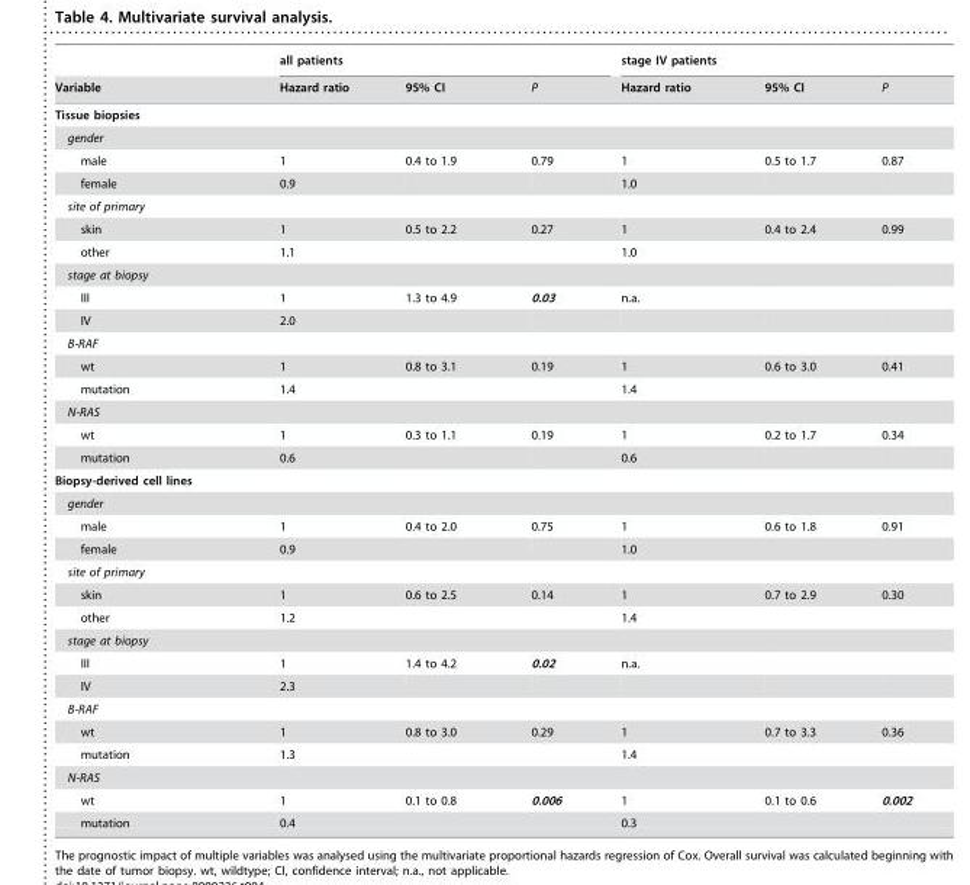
<table><thead><tr><td rowspan="2">Variable</td><td colspan="3">all patients</td><td colspan="3">stage IV patients</td></tr><tr><td>Hazard ratio</td><td>95% CI</td><td>P</td><td>Hazard ratio</td><td>95% CI</td><td>P</td></tr></thead><tbody><tr><td colspan="7">Tissue biopsies</td></tr><tr><td colspan="7">gender</td></tr><tr><td>male</td><td>1</td><td>0.4 to 1.9</td><td>0.79</td><td>1</td><td>0.5 to 1.7</td><td>0.87</td></tr><tr><td>female</td><td>0.9</td><td></td><td></td><td>1.0</td><td></td><td></td></tr><tr><td colspan="7">site of primary</td></tr><tr><td>skin</td><td>1</td><td>0.5 to 2.2</td><td>0.27</td><td>1</td><td>0.4 to 2.4</td><td>0.99</td></tr><tr><td>other</td><td>1.1</td><td></td><td></td><td>1.0</td><td></td><td></td></tr><tr><td colspan="7">stage at biopsy</td></tr><tr><td>III</td><td>1</td><td>1.3 to 4.9</td><td>0.03</td><td>n.a.</td><td></td><td></td></tr><tr><td>IV</td><td>2.0</td><td></td><td></td><td></td><td></td><td></td></tr><tr><td colspan="7">B-RAF</td></tr><tr><td>wt</td><td>1</td><td>0.8 to 3.1</td><td>0.19</td><td>1</td><td>0.6 to 3.0</td><td>0.41</td></tr><tr><td>mutation</td><td>1.4</td><td></td><td></td><td>1.4</td><td></td><td></td></tr><tr><td colspan="7">N-RAS</td></tr><tr><td>wt</td><td>1</td><td>0.3 to 1.1</td><td>0.19</td><td>1</td><td>0.2 to 1.7</td><td>0.34</td></tr><tr><td>mutation</td><td>0.6</td><td></td><td></td><td>0.6</td><td></td><td></td></tr><tr><td colspan="7">Biopsy-derived cell lines</td></tr><tr><td colspan="7">gender</td></tr><tr><td>male</td><td>1</td><td>0.4 to 2.0</td><td>0.75</td><td>1</td><td>0.6 to 1.8</td><td>0.91</td></tr><tr><td>female</td><td>0.9</td><td></td><td></td><td>1.0</td><td></td><td></td></tr><tr><td colspan="7">site of primary</td></tr><tr><td>skin</td><td>1</td><td>0.6 to 2.5</td><td>0.14</td><td>1</td><td>0.7 to 2.9</td><td>0.30</td></tr><tr><td>other</td><td>1.2</td><td></td><td></td><td>1.4</td><td></td><td></td></tr><tr><td colspan="7">stage at biopsy</td></tr><tr><td>III</td><td>1</td><td>1.4 to 4.2</td><td>0.02</td><td>n.a.</td><td></td><td></td></tr><tr><td>IV</td><td>2.3</td><td></td><td></td><td></td><td></td><td></td></tr><tr><td colspan="7">B-RAF</td></tr><tr><td>wt</td><td>1</td><td>0.8 to 3.0</td><td>0.29</td><td>1</td><td>0.7 to 3.3</td><td>0.36</td></tr><tr><td>mutation</td><td>1.3</td><td></td><td></td><td>1.4</td><td></td><td></td></tr><tr><td colspan="7">N-RAS</td></tr><tr><td>wt</td><td>1</td><td>0.1 to 0.8</td><td>0.006</td><td>1</td><td>0.1 to 0.6</td><td>0.002</td></tr><tr><td>mutation</td><td>0.4</td><td></td><td></td><td>0.3</td><td></td><td></td></tr></tbody></table>